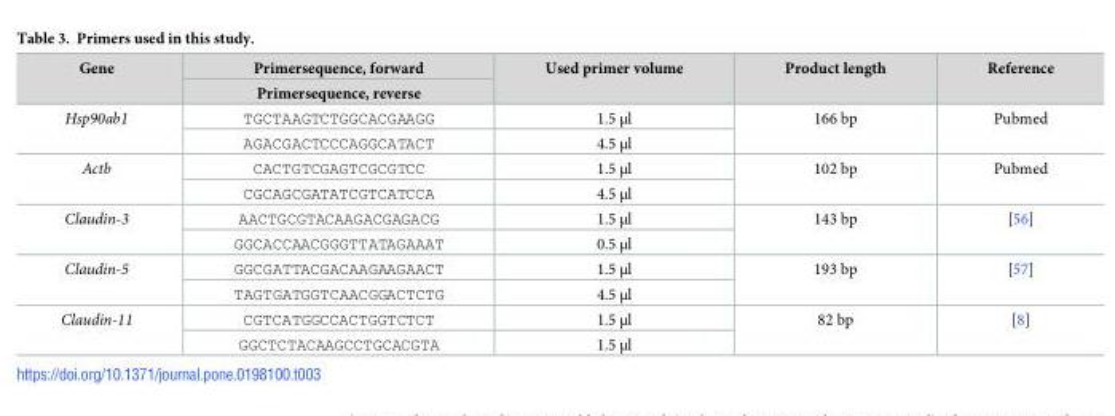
<table><thead><tr><td rowspan="2">Gene</td><td rowspan="2">Primersequence, forward Primersequence, reverse</td><td rowspan="2">Used primer volume</td><td rowspan="2">Product length</td><td rowspan="2">Reference</td></tr><tr></tr></thead><tbody><tr><td rowspan="2">Hsp90ab1</td><td>TGCTAAGTCTGGCACGAAGG</td><td>1.5 μl</td><td rowspan="2">166 bp</td><td rowspan="2">Pubmed</td></tr><tr><td>AGACGACTCCCAGGCATACT</td><td>4.5 μl</td></tr><tr><td rowspan="2">Actb</td><td>CACTGTCGAGTCGCGTCC</td><td>1.5 μl</td><td rowspan="2">102 bp</td><td rowspan="2">Pubmed</td></tr><tr><td>CGCAGCGATATCGTCATCCA</td><td>4.5 μl</td></tr><tr><td rowspan="2">Claudin-3</td><td>AACTGCGTACAAGACGAGACG</td><td>1.5 μl</td><td rowspan="2">143 bp</td><td rowspan="2">[56]</td></tr><tr><td>GGCACCAACGGGTTATAGAAAT</td><td>0.5 μl</td></tr><tr><td rowspan="2">Claudin-5</td><td>GGCGATTACGACAAGAAGAACT</td><td>1.5 μl</td><td rowspan="2">193 bp</td><td rowspan="2">[57]</td></tr><tr><td>TAGTGATGGTCAACGGACTCTG</td><td>4.5 μl</td></tr><tr><td rowspan="2">Claudin-11</td><td>CGTCATGGCCACTGGTCTCT</td><td>1.5 μl</td><td rowspan="2">82 bp</td><td rowspan="2">[8]</td></tr><tr><td>GGCTCTACAAGCCTGCACGTA</td><td>1.5 μl</td></tr></tbody></table>